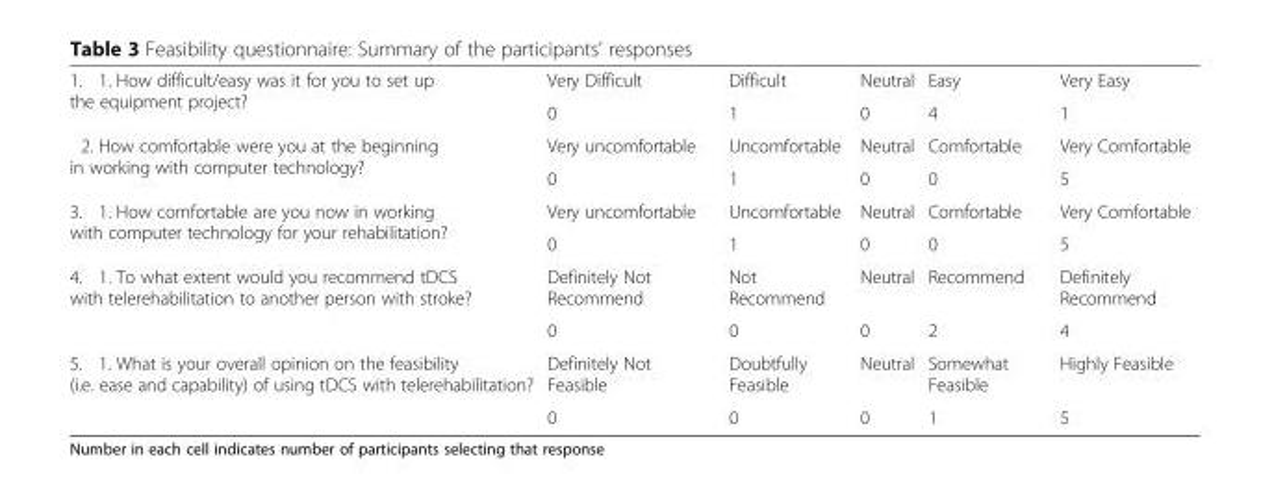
<table><tbody><tr><td rowspan="2">1. 1. How difficult/easy was it for you to set up the equipment project?</td><td>Very Difficult</td><td>Difficult</td><td>Neutral</td><td>Easy</td><td>Very Easy</td></tr><tr><td>0</td><td>1</td><td>0</td><td>4</td><td>1</td></tr><tr><td rowspan="2">2. How comfortable were you at the beginning in working with computer technology?</td><td>Very uncomfortable</td><td>Uncomfortable</td><td>Neutral</td><td>Comfortable</td><td>Very Comfortable</td></tr><tr><td>0</td><td>1</td><td>0</td><td>0</td><td>5</td></tr><tr><td rowspan="2">3. 1. How comfortable are you now in working with computer technology for your rehabilitation?</td><td>Very uncomfortable</td><td>Uncomfortable</td><td>Neutral</td><td>Comfortable</td><td>Very Comfortable</td></tr><tr><td>0</td><td>1</td><td>0</td><td>0</td><td>5</td></tr><tr><td rowspan="2">4. 1. To what extent would you recommend tDCS with telerehabilitation to another person with stroke?</td><td>Definitely Not Recommend</td><td>Not Recommend</td><td>Neutral</td><td>Recommend</td><td>Definitely Recommend</td></tr><tr><td>0</td><td>0</td><td>0</td><td>2</td><td>4</td></tr><tr><td rowspan="2">5. 1. What is your overall opinion on the feasibility (i.e. ease and capability) of using tDCS with telerehabilitation?</td><td>Definitely Not Feasible</td><td>Doubtfully Feasible</td><td>Neutral</td><td>Somewhat Feasible</td><td>Highly Feasible</td></tr><tr><td>0</td><td>0</td><td>0</td><td>1</td><td>5</td></tr></tbody></table>